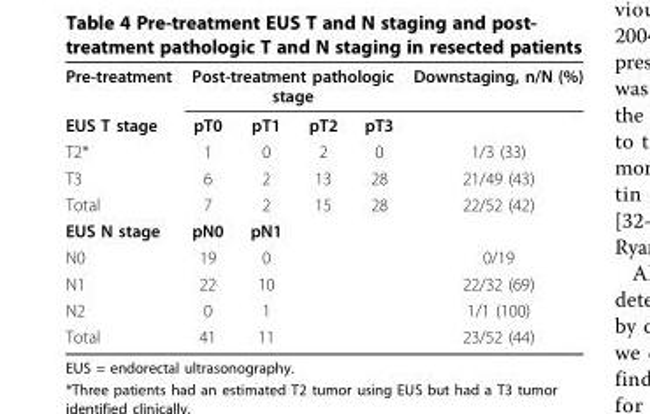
<table><tbody><tr><td>Pre-treatment</td><td colspan="4">Post-treatment pathologic stage</td><td>Downstaging, n/N (%)</td></tr><tr><td>EUS T stage</td><td>pT0</td><td>pT1</td><td>pT2</td><td>pT3</td><td></td></tr><tr><td>T2*</td><td>1</td><td>0</td><td>2</td><td>0</td><td>1/3 (33)</td></tr><tr><td>T3</td><td>6</td><td>2</td><td>13</td><td>28</td><td>21/49 (43)</td></tr><tr><td>Total</td><td>7</td><td>2</td><td>15</td><td>28</td><td>22/52 (42)</td></tr><tr><td>EUS N stage</td><td>pN0</td><td>pN1</td><td></td><td></td><td></td></tr><tr><td>N0</td><td>19</td><td>0</td><td></td><td></td><td>0/19</td></tr><tr><td>N1</td><td>22</td><td>10</td><td></td><td></td><td>22/32 (69)</td></tr><tr><td>N2</td><td>0</td><td>1</td><td></td><td></td><td>1/1 (100)</td></tr><tr><td>Total</td><td>41</td><td>11</td><td></td><td></td><td>23/52 (44)</td></tr></tbody></table>